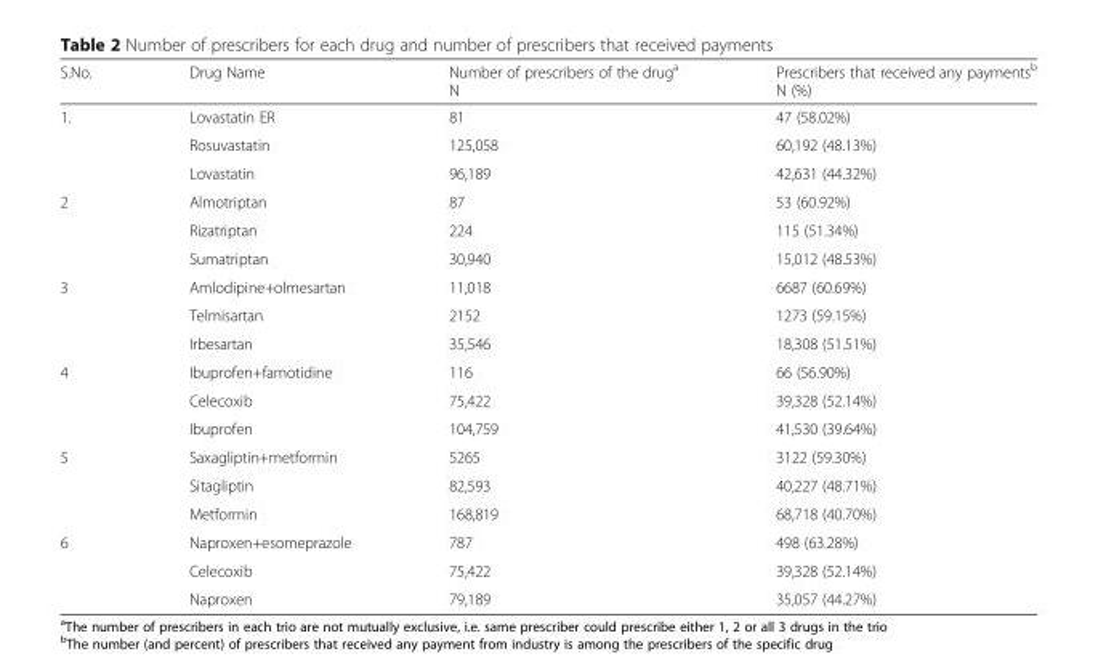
<table><thead><tr><td>S.No.</td><td>Drug Name</td><td>Number of prescribers of the drug<sup>a</sup> N</td><td>Prescribers that received any payments<sup>b</sup> N (%)</td></tr></thead><tbody><tr><td rowspan="3">1.</td><td>Lovastatin ER</td><td>81</td><td>47 (58.02%)</td></tr><tr><td>Rosuvastatin</td><td>125,058</td><td>60,192 (48.13%)</td></tr><tr><td>Lovastatin</td><td>96,189</td><td>42,631 (44.32%)</td></tr><tr><td rowspan="3">2</td><td>Almotriptan</td><td>87</td><td>53 (60.92%)</td></tr><tr><td>Rizatriptan</td><td>224</td><td>115 (51.34%)</td></tr><tr><td>Sumatriptan</td><td>30,940</td><td>15,012 (48.53%)</td></tr><tr><td rowspan="3">3</td><td>Amlodipine+olmesartan</td><td>11,018</td><td>6687 (60.69%)</td></tr><tr><td>Telmisartan</td><td>2152</td><td>1273 (59.15%)</td></tr><tr><td>Irbesartan</td><td>35,546</td><td>18,308 (51.51%)</td></tr><tr><td rowspan="3">4</td><td>Ibuprofen+famotidine</td><td>116</td><td>66 (56.90%)</td></tr><tr><td>Celecoxib</td><td>75,422</td><td>39,328 (52.14%)</td></tr><tr><td>Ibuprofen</td><td>104,759</td><td>41,530 (39.64%)</td></tr><tr><td rowspan="3">5</td><td>Saxagliptin+metformin</td><td>5265</td><td>3122 (59.30%)</td></tr><tr><td>Sitagliptin</td><td>82,593</td><td>40,227 (48.71%)</td></tr><tr><td>Metformin</td><td>168,819</td><td>68,718 (40.70%)</td></tr><tr><td rowspan="3">6</td><td>Naproxen+esomeprazole</td><td>787</td><td>498 (63.28%)</td></tr><tr><td>Celecoxib</td><td>75,422</td><td>39,328 (52.14%)</td></tr><tr><td>Naproxen</td><td>79,189</td><td>35,057 (44.27%)</td></tr></tbody></table>